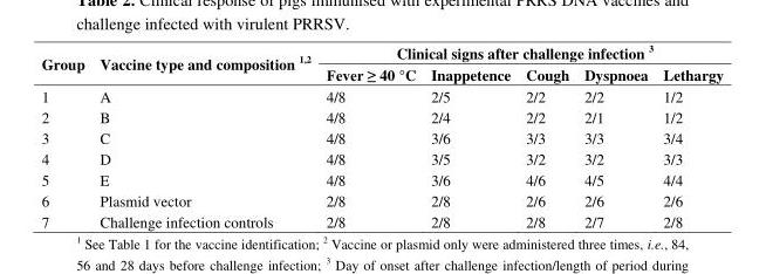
<table><thead><tr><td rowspan="2">Group</td><td rowspan="2">Vaccine type and composition <sup>1,2</sup></td><td colspan="5">Clinical signs after challenge infection <sup>3</sup></td></tr><tr><td>Fever ≥ 40 °C</td><td>Inappetence</td><td>Cough</td><td>Dyspnoea</td><td>Lethargy</td></tr></thead><tbody><tr><td>1</td><td>A</td><td>4/8</td><td>2/5</td><td>2/2</td><td>2/2</td><td>1/2</td></tr><tr><td>2</td><td>B</td><td>4/8</td><td>2/4</td><td>2/2</td><td>2/1</td><td>1/2</td></tr><tr><td>3</td><td>C</td><td>4/8</td><td>3/6</td><td>3/3</td><td>3/3</td><td>3/4</td></tr><tr><td>4</td><td>D</td><td>4/8</td><td>3/5</td><td>3/2</td><td>3/2</td><td>3/3</td></tr><tr><td>5</td><td>E</td><td>4/8</td><td>3/6</td><td>4/6</td><td>4/5</td><td>4/4</td></tr><tr><td>6</td><td>Plasmid vector</td><td>2/8</td><td>2/8</td><td>2/6</td><td>2/6</td><td>2/6</td></tr><tr><td>7</td><td>Challenge infection controls</td><td>2/8</td><td>2/8</td><td>2/8</td><td>2/7</td><td>2/8</td></tr></tbody></table>